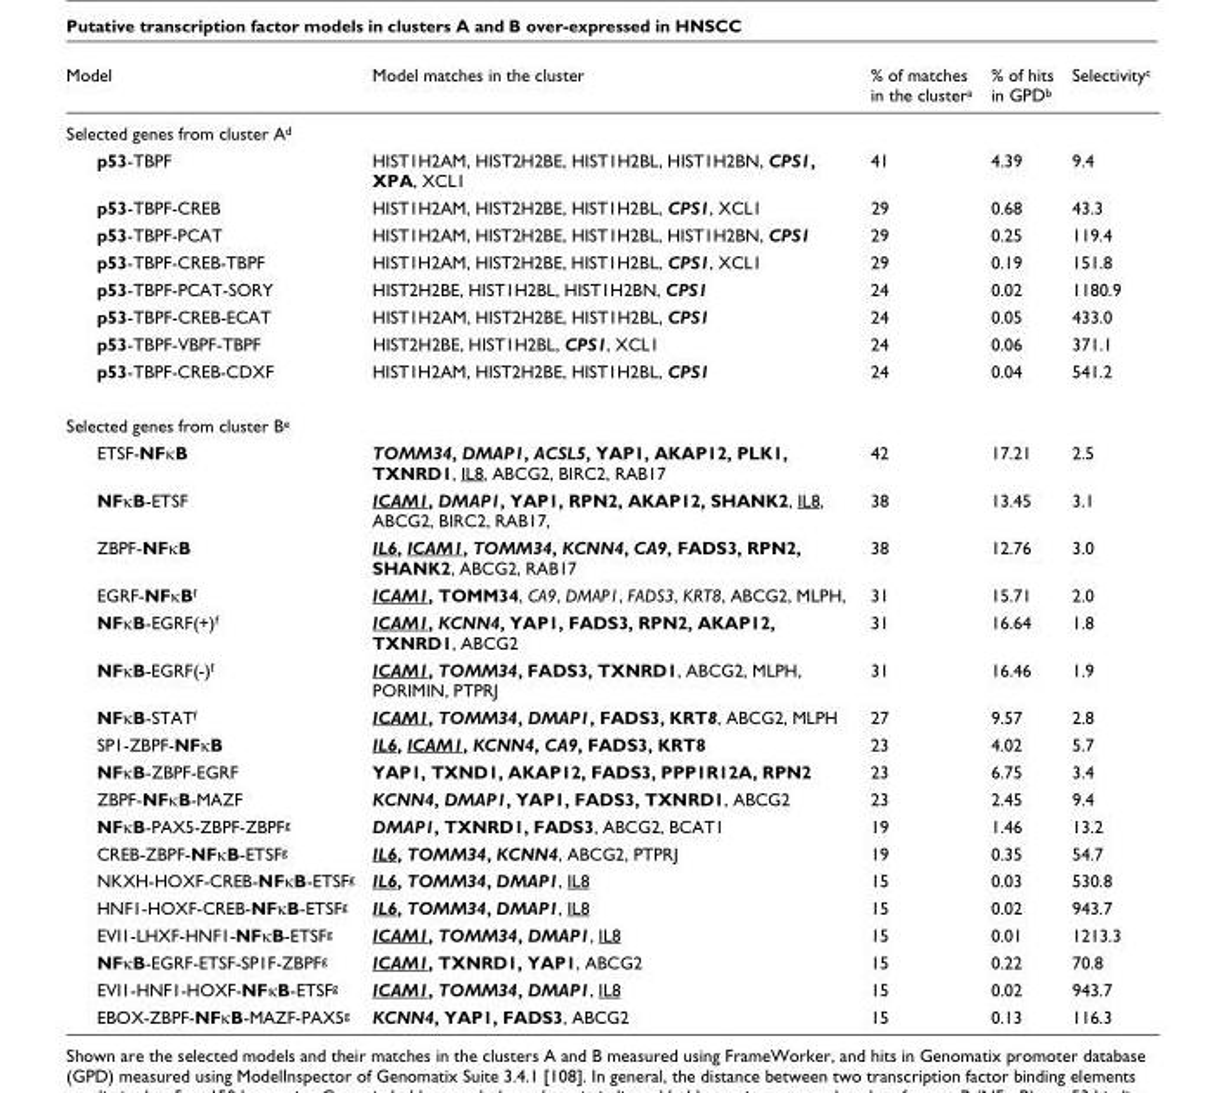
<table><thead><tr><td>Model</td><td>Model matches in the cluster</td><td>% of matches in the cluster<sup>a</sup></td><td>% of hits in GPD<sup>b</sup></td><td>Selectivity<sup>c</sup></td></tr></thead><tbody><tr><td colspan="5">Selected genes from cluster A<sup>d</sup></td></tr><tr><td>p53-TBPF</td><td>HIST1H2AM, HIST2H2BE, HIST1H2BL, HIST1H2BN, CPS1, XPA, XCL1</td><td>41</td><td>4.39</td><td>9.4</td></tr><tr><td>p53-TBPF-CREB</td><td>HIST1H2AM, HIST2H2BE, HIST1H2BL, CPS1, XCL1</td><td>29</td><td>0.68</td><td>43.3</td></tr><tr><td>p53-TBPF-PCAT</td><td>HIST1H2AM, HIST2H2BE, HIST1H2BL, HIST1H2BN, CPS1</td><td>29</td><td>0.25</td><td>119.4</td></tr><tr><td>p53-TBPF-CREB-TBPF</td><td>HIST1H2AM, HIST2H2BE, HIST1H2BL, CPS1, XCL1</td><td>29</td><td>0.19</td><td>151.8</td></tr><tr><td>p53-TBPF-PCAT-SORY</td><td>HIST2H2BE, HIST1H2BL, HIST1H2BN, CPS1</td><td>24</td><td>0.02</td><td>1180.9</td></tr><tr><td>p53-TBPF-CREB-ECAT</td><td>HIST1H2AM, HIST2H2BE, HIST1H2BL, CPS1</td><td>24</td><td>0.05</td><td>433.0</td></tr><tr><td>p53-TBPF-VBPF-TBPF</td><td>HIST2H2BE, HIST1H2BL, CPS1, XCL1</td><td>24</td><td>0.06</td><td>371.1</td></tr><tr><td>p53-TBPF-CREB-CDXF</td><td>HIST1H2AM, HIST2H2BE, HIST1H2BL, CPS1</td><td>24</td><td>0.04</td><td>541.2</td></tr><tr><td colspan="5">Selected genes from cluster B<sup>e</sup></td></tr><tr><td>ETSF-NFκB</td><td>TOMM34, DMAP1, ACSL5, YAP1, AKAP12, PLK1, TXNRD1, IL8, ABCG2, BIRC2, RAB17</td><td>42</td><td>17.21</td><td>2.5</td></tr><tr><td>NFκB-ETSF</td><td>ICAM1, DMAP1, YAP1, RPN2, AKAP12, SHANK2, IL8, ABCG2, BIRC2, RAB17,</td><td>38</td><td>13.45</td><td>3.1</td></tr><tr><td>ZBPF-NFκB</td><td>IL6, ICAM1, TOMM34, KCNN4, CA9, FADS3, RPN2, SHANK2, ABCG2, RAB17</td><td>38</td><td>12.76</td><td>3.0</td></tr><tr><td>EGRF-NFκB<sup>f</sup></td><td>ICAM1, TOMM34, CA9, DMAP1, FADS3, KRT8, ABCG2, MLPH,</td><td>31</td><td>15.71</td><td>2.0</td></tr><tr><td>NFκB-EGRF(+)<sup>f</sup></td><td>ICAM1, KCNN4, YAP1, FADS3, RPN2, AKAP12, TXNRD1, ABCG2</td><td>31</td><td>16.64</td><td>1.8</td></tr><tr><td>NFκB-EGRF(-)<sup>f</sup></td><td>ICAM1, TOMM34, FADS3, TXNRD1, ABCG2, MLPH, PORIMIN, PTPRJ</td><td>31</td><td>16.46</td><td>1.9</td></tr><tr><td>NFκB-STAT<sup>f</sup></td><td>ICAM1, TOMM34, DMAP1, FADS3, KRT8, ABCG2, MLPH</td><td>27</td><td>9.57</td><td>2.8</td></tr><tr><td>SP1-ZBPF-NFκB</td><td>IL6, ICAM1, KCNN4, CA9, FADS3, KRT8</td><td>23</td><td>4.02</td><td>5.7</td></tr><tr><td>NFκB-ZBPF-EGRF</td><td>YAP1, TXND1, AKAP12, FADS3, PPP1R12A, RPN2</td><td>23</td><td>6.75</td><td>3.4</td></tr><tr><td>ZBPF-NFκB-MAZF</td><td>KCNN4, DMAP1, YAP1, FADS3, TXNRD1, ABCG2</td><td>23</td><td>2.45</td><td>9.4</td></tr><tr><td>NFκB-PAX5-ZBPF-ZBPF<sup>g</sup></td><td>DMAP1, TXNRD1, FADS3, ABCG2, BCAT1</td><td>19</td><td>1.46</td><td>13.2</td></tr><tr><td>CREB-ZBPF-NFκB-ETSF<sup>g</sup></td><td>IL6, TOMM34, KCNN4, ABCG2, PTPRJ</td><td>19</td><td>0.35</td><td>54.7</td></tr><tr><td>NKXH-HOXF-CREB-NFκB-ETSF<sup>g</sup></td><td>IL6, TOMM34, DMAP1, IL8</td><td>15</td><td>0.03</td><td>530.8</td></tr><tr><td>HNF1-HOXF-CREB-NFκB-ETSF<sup>g</sup></td><td>IL6, TOMM34, DMAP1, IL8</td><td>15</td><td>0.02</td><td>943.7</td></tr><tr><td>EVI1-LHXF-HNF1-NFκB-ETSF<sup>g</sup></td><td>ICAM1, TOMM34, DMAP1, IL8</td><td>15</td><td>0.01</td><td>1213.3</td></tr><tr><td>NFκB-EGRF-ETSF-SP1F-ZBPF<sup>g</sup></td><td>ICAM1, TXNRD1, YAP1, ABCG2</td><td>15</td><td>0.22</td><td>70.8</td></tr><tr><td>EVI1-HNF1-HOXF-NFκB-ETSF<sup>g</sup></td><td>ICAM1, TOMM34, DMAP1, IL8</td><td>15</td><td>0.02</td><td>943.7</td></tr><tr><td>EBOX-ZBPF-NFκB-MAZF-PAX5<sup>g</sup></td><td>KCNN4, YAP1, FADS3, ABCG2</td><td>15</td><td>0.13</td><td>116.3</td></tr></tbody></table>